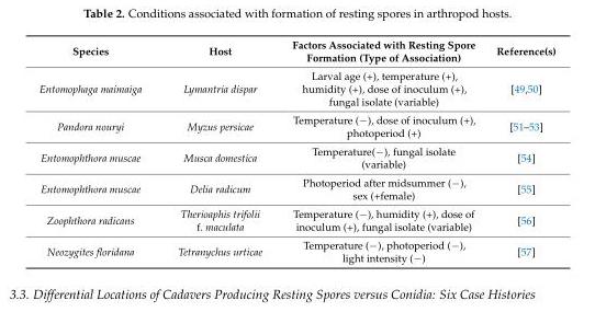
<table><thead><tr><td>Species</td><td>Host</td><td>Factors Associated with Resting Spore Formation (Type of Association)</td><td>Reference(s)</td></tr></thead><tbody><tr><td>Entomophaga maimaiga</td><td>Lymantria dispar</td><td>Larval age (+), temperature (+), humidity (+), dose of inoculum (+), fungal isolate (variable)</td><td>[49,50]</td></tr><tr><td>Pandora nouryi</td><td>Myzus persicae</td><td>Temperature (−), dose of inoculum (+), photoperiod (+)</td><td>[51–53]</td></tr><tr><td>Entomophthora muscae</td><td>Musca domestica</td><td>Temperature(−), fungal isolate (variable)</td><td>[54]</td></tr><tr><td>Entomophthora muscae</td><td>Delia radicum</td><td>Photoperiod after midsummer (−), sex (+female)</td><td>[55]</td></tr><tr><td>Zoophthora radicans</td><td>Therioaphis trifolii f. maculata</td><td>Temperature (−), humidity (+), dose of inoculum (+), fungal isolate (variable)</td><td>[56]</td></tr><tr><td>Neozygites floridana</td><td>Tetranychus urticae</td><td>Temperature (−), photoperiod (−), light intensity (−)</td><td>[57]</td></tr></tbody></table>